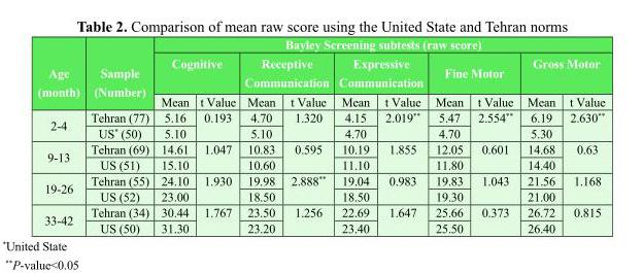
<table><thead><tr><td rowspan="3">Age (month)</td><td rowspan="3">Sample (Number)</td><td colspan="10">Bayley Screening subtests (raw score)</td></tr><tr><td colspan="2">Cognitive</td><td colspan="2">Receptive Communication</td><td colspan="2">Expressive Communication</td><td colspan="2">Fine Motor</td><td colspan="2">Gross Motor</td></tr><tr><td>Mean</td><td>t Value</td><td>Mean</td><td>t Value</td><td>Mean</td><td>t Value</td><td>Mean</td><td>t Value</td><td>Mean</td><td>t Value</td></tr></thead><tbody><tr><td rowspan="2">2-4</td><td>Tehran (77)</td><td>5.16</td><td>0.193</td><td>4.70</td><td>1.320</td><td>4.15</td><td>2.019**</td><td>5.47</td><td>2.554**</td><td>6.19</td><td>2.630**</td></tr><tr><td>US* (50)</td><td>5.10</td><td></td><td>5.10</td><td></td><td>4.70</td><td></td><td>4.70</td><td></td><td>5.30</td><td></td></tr><tr><td rowspan="2">9-13</td><td>Tehran (69)</td><td>14.61</td><td>1.047</td><td>10.83</td><td>0.595</td><td>10.19</td><td>1.855</td><td>12.05</td><td>0.601</td><td>14.68</td><td>0.63</td></tr><tr><td>US (51)</td><td>15.10</td><td></td><td>10.60</td><td></td><td>11.10</td><td></td><td>11.80</td><td></td><td>14.40</td><td></td></tr><tr><td rowspan="2">19-26</td><td>Tehran (55)</td><td>24.10</td><td>1.930</td><td>19.98</td><td>2.888**</td><td>19.04</td><td>0.983</td><td>19.83</td><td>1.043</td><td>21.56</td><td>1.168</td></tr><tr><td>US (52)</td><td>23.00</td><td></td><td>18.50</td><td></td><td>18.50</td><td></td><td>19.30</td><td></td><td>21.00</td><td></td></tr><tr><td rowspan="2">33-42</td><td>Tehran (34)</td><td>30.44</td><td>1.767</td><td>23.50</td><td>1.256</td><td>22.69</td><td>1.647</td><td>25.66</td><td>0.373</td><td>26.72</td><td>0.815</td></tr><tr><td>US (50)</td><td>31.30</td><td></td><td>23.20</td><td></td><td>23.40</td><td></td><td>25.50</td><td></td><td>26.40</td><td></td></tr></tbody></table>